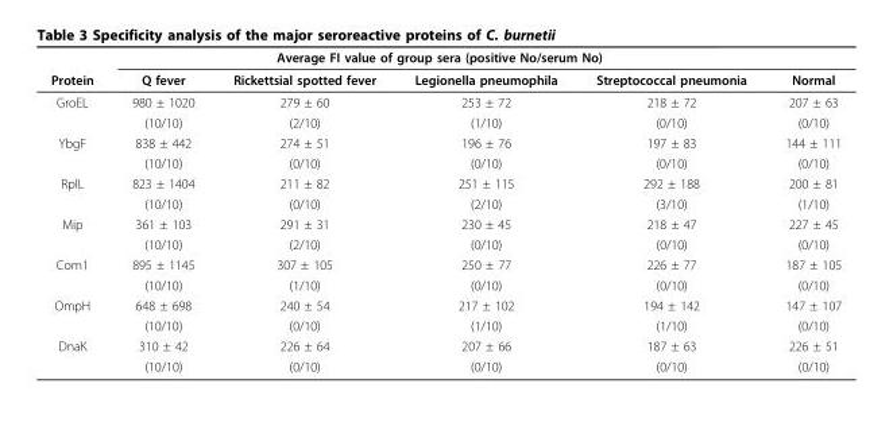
<table><thead><tr><td rowspan="2">Protein</td><td colspan="4">Average FI value of group sera (positive No/serum No)</td><td rowspan="2">Normal</td></tr><tr><td>Q fever</td><td>Rickettsial spotted fever</td><td>Legionella pneumophila</td><td>Streptococcal pneumonia</td></tr></thead><tbody><tr><td rowspan="2">GroEL</td><td>980 ± 1020</td><td>279 ± 60</td><td>253 ± 72</td><td>218 ± 72</td><td>207 ± 63</td></tr><tr><td>(10/10)</td><td>(2/10)</td><td>(1/10)</td><td>(0/10)</td><td>(0/10)</td></tr><tr><td rowspan="2">YbgF</td><td>838 ± 442</td><td>274 ± 51</td><td>196 ± 76</td><td>197 ± 83</td><td>144 ± 111</td></tr><tr><td>(10/10)</td><td>(0/10)</td><td>(0/10)</td><td>(0/10)</td><td>(0/10)</td></tr><tr><td rowspan="2">RplL</td><td>823 ± 1404</td><td>211 ± 82</td><td>251 ± 115</td><td>292 ± 188</td><td>200 ± 81</td></tr><tr><td>(10/10)</td><td>(0/10)</td><td>(2/10)</td><td>(3/10)</td><td>(1/10)</td></tr><tr><td rowspan="2">Mip</td><td>361 ± 103</td><td>291 ± 31</td><td>230 ± 45</td><td>218 ± 47</td><td>227 ± 45</td></tr><tr><td>(10/10)</td><td>(2/10)</td><td>(0/10)</td><td>(0/10)</td><td>(0/10)</td></tr><tr><td rowspan="2">Com1</td><td>895 ± 1145</td><td>307 ± 105</td><td>250 ± 77</td><td>226 ± 77</td><td>187 ± 105</td></tr><tr><td>(10/10)</td><td>(1/10)</td><td>(0/10)</td><td>(0/10)</td><td>(0/10)</td></tr><tr><td rowspan="2">OmpH</td><td>648 ± 698</td><td>240 ± 54</td><td>217 ± 102</td><td>194 ± 142</td><td>147 ± 107</td></tr><tr><td>(10/10)</td><td>(0/10)</td><td>(1/10)</td><td>(1/10)</td><td>(0/10)</td></tr><tr><td rowspan="2">DnaK</td><td>310 ± 42</td><td>226 ± 64</td><td>207 ± 66</td><td>187 ± 63</td><td>226 ± 51</td></tr><tr><td>(10/10)</td><td>(0/10)</td><td>(0/10)</td><td>(0/10)</td><td>(0/10)</td></tr></tbody></table>